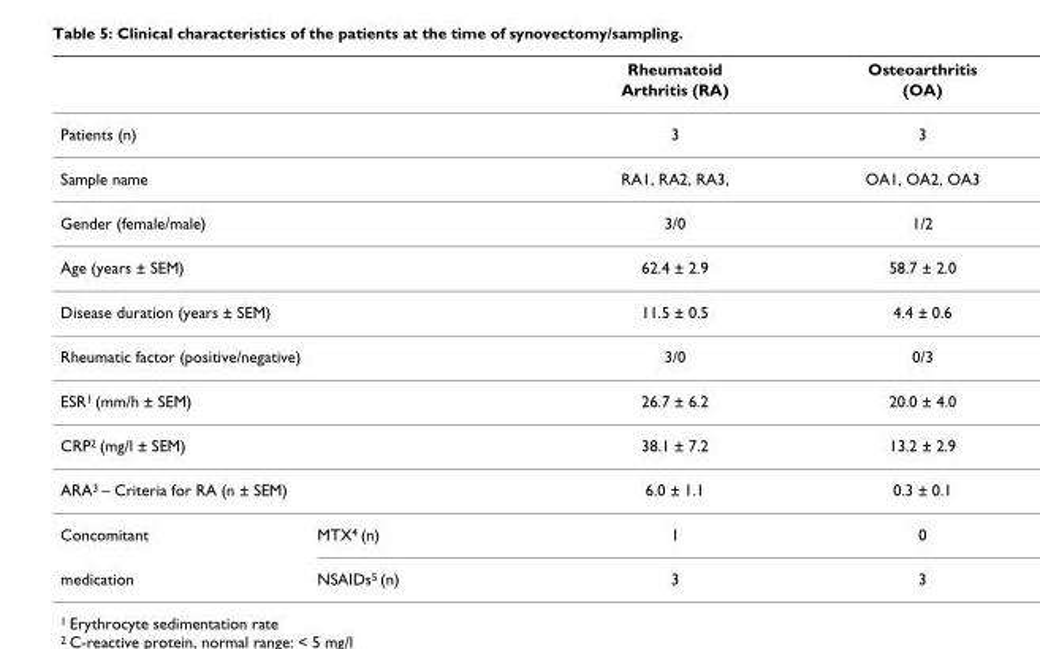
<table><thead><tr><td rowspan="2"></td><td rowspan="2"></td><td rowspan="2">Rheumatoid Arthritis (RA)</td><td rowspan="2">Osteoarthritis (OA)</td></tr><tr></tr></thead><tbody><tr><td colspan="2">Patients (n)</td><td>3</td><td>3</td></tr><tr><td colspan="2">Sample name</td><td>RA1, RA2, RA3,</td><td>OA1, OA2, OA3</td></tr><tr><td colspan="2">Gender (female/male)</td><td>3/0</td><td>1/2</td></tr><tr><td colspan="2">Age (years ± SEM)</td><td>62.4 ± 2.9</td><td>58.7 ± 2.0</td></tr><tr><td colspan="2">Disease duration (years ± SEM)</td><td>11.5 ± 0.5</td><td>4.4 ± 0.6</td></tr><tr><td colspan="2">Rheumatic factor (positive/negative)</td><td>3/0</td><td>0/3</td></tr><tr><td colspan="2">ESR<sup>1</sup> (mm/h ± SEM)</td><td>26.7 ± 6.2</td><td>20.0 ± 4.0</td></tr><tr><td colspan="2">CRP<sup>2</sup> (mg/l ± SEM)</td><td>38.1 ± 7.2</td><td>13.2 ± 2.9</td></tr><tr><td colspan="2">ARA<sup>3</sup> – Criteria for RA (n ± SEM)</td><td>6.0 ± 1.1</td><td>0.3 ± 0.1</td></tr><tr><td>Concomitant</td><td>MTX<sup>4</sup> (n)</td><td>1</td><td>0</td></tr><tr><td>medication</td><td>NSAIDs<sup>5</sup> (n)</td><td>3</td><td>3</td></tr></tbody></table>